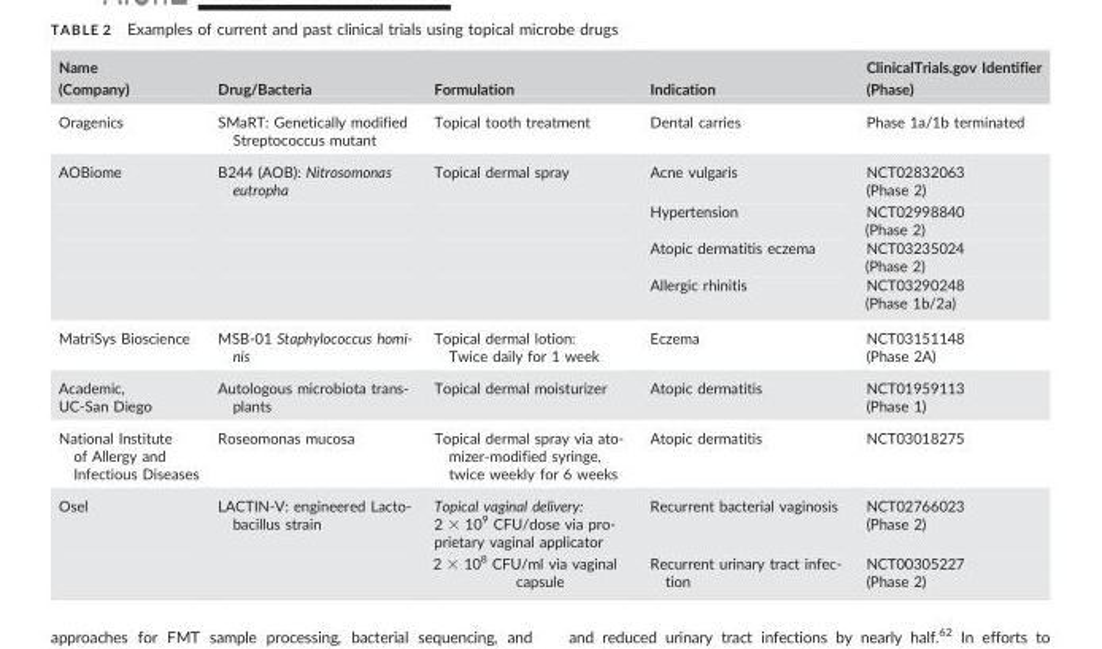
<table><thead><tr><td>Name (Company)</td><td>Drug/Bacteria</td><td>Formulation</td><td>Indication</td><td>ClinicalTrials.gov Identifier (Phase)</td></tr></thead><tbody><tr><td>Oragenics</td><td>SMaRT: Genetically modified Streptococcus mutant</td><td>Topical tooth treatment</td><td>Dental carries</td><td>Phase 1a/1b terminated</td></tr><tr><td rowspan="4">AOBiome</td><td>B244 (AOB): Nitrosomonas eutropha</td><td>Topical dermal spray</td><td>Acne vulgaris</td><td>NCT02832063 (Phase 2)</td></tr><tr><td></td><td></td><td>Hypertension</td><td>NCT02998840 (Phase 2)</td></tr><tr><td></td><td></td><td>Atopic dermatitis eczema</td><td>NCT03235024 (Phase 2)</td></tr><tr><td></td><td></td><td>Allergic rhinitis</td><td>NCT03290248 (Phase 1b/2a)</td></tr><tr><td>MatriSys Bioscience</td><td>MSB-01 Staphylococcus homi- nis</td><td>Topical dermal lotion: Twice daily for 1 week</td><td>Eczema</td><td>NCT03151148 (Phase 2A)</td></tr><tr><td>Academic, UC-San Diego</td><td>Autologous microbiota trans- plants</td><td>Topical dermal moisturizer</td><td>Atopic dermatitis</td><td>NCT01959113 (Phase 1)</td></tr><tr><td>National Institute of Allergy and Infectious Diseases</td><td>Roseomonas mucosa</td><td>Topical dermal spray via ato- mizer-modified syringe, twice weekly for 6 weeks</td><td>Atopic dermatitis</td><td>NCT03018275</td></tr><tr><td rowspan="2">Osel</td><td>LACTIN-V: engineered Lacto- bacillus strain</td><td>Topical vaginal delivery: 2 3 109 CFU/dose via pro- prietary vaginal applicator</td><td>Recurrent bacterial vaginosis</td><td>NCT02766023 (Phase 2)</td></tr><tr><td></td><td>2 × 10<sup>8</sup> CFU/ml via vaginal capsule</td><td>Recurrent urinary tract infec- tion</td><td>NCT00305227 (Phase 2)</td></tr></tbody></table>